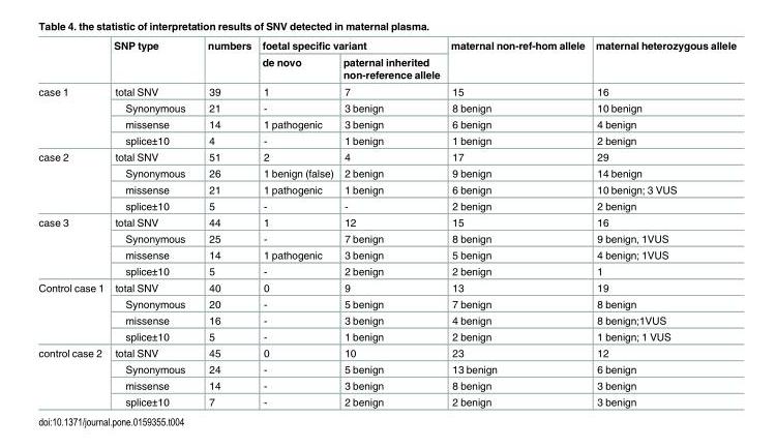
<table><thead><tr><td rowspan="2"></td><td rowspan="2">SNP type</td><td rowspan="2">numbers</td><td colspan="2">foetal specific variant</td><td rowspan="2">maternal non-ref-hom allele</td><td rowspan="2">maternal heterozygous allele</td></tr><tr><td>de novo</td><td>paternal inherited non-reference allele</td></tr></thead><tbody><tr><td rowspan="4">case 1</td><td>total SNV</td><td>39</td><td>1</td><td>7</td><td>15</td><td>16</td></tr><tr><td>Synonymous</td><td>21</td><td>-</td><td>3 benign</td><td>8 benign</td><td>10 benign</td></tr><tr><td>missense</td><td>14</td><td>1 pathogenic</td><td>3 benign</td><td>6 benign</td><td>4 benign</td></tr><tr><td>splice±10</td><td>4</td><td>-</td><td>1 benign</td><td>1 benign</td><td>2 benign</td></tr><tr><td rowspan="4">case 2</td><td>total SNV</td><td>51</td><td>2</td><td>4</td><td>17</td><td>29</td></tr><tr><td>Synonymous</td><td>26</td><td>1 benign (false)</td><td>2 benign</td><td>9 benign</td><td>14 benign</td></tr><tr><td>missense</td><td>21</td><td>1 pathogenic</td><td>1 benign</td><td>6 benign</td><td>10 benign; 3 VUS</td></tr><tr><td>splice±10</td><td>5</td><td>-</td><td>-</td><td>2 benign</td><td>2 benign</td></tr><tr><td rowspan="4">case 3</td><td>total SNV</td><td>44</td><td>1</td><td>12</td><td>15</td><td>16</td></tr><tr><td>Synonymous</td><td>25</td><td>-</td><td>7 benign</td><td>8 benign</td><td>9 benign, 1VUS</td></tr><tr><td>missense</td><td>14</td><td>1 pathogenic</td><td>3 benign</td><td>5 benign</td><td>4 benign; 1VUS</td></tr><tr><td>splice±10</td><td>5</td><td>-</td><td>2 benign</td><td>2 benign</td><td>1</td></tr><tr><td rowspan="4">Control case 1</td><td>total SNV</td><td>40</td><td>0</td><td>9</td><td>13</td><td>19</td></tr><tr><td>Synonymous</td><td>20</td><td>-</td><td>5 benign</td><td>7 benign</td><td>8 benign</td></tr><tr><td>missense</td><td>16</td><td>-</td><td>3 benign</td><td>4 benign</td><td>8 benign;1VUS</td></tr><tr><td>splice±10</td><td>5</td><td>-</td><td>1 benign</td><td>2 benign</td><td>1 benign; 1 VUS</td></tr><tr><td rowspan="4">control case 2</td><td>total SNV</td><td>45</td><td>0</td><td>10</td><td>23</td><td>12</td></tr><tr><td>Synonymous</td><td>24</td><td>-</td><td>5 benign</td><td>13 benign</td><td>6 benign</td></tr><tr><td>missense</td><td>14</td><td>-</td><td>3 benign</td><td>8 benign</td><td>3 benign</td></tr><tr><td>splice±10</td><td>7</td><td>-</td><td>2 benign</td><td>2 benign</td><td>3 benign</td></tr></tbody></table>